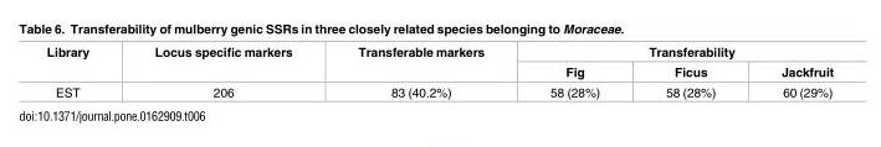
<table><thead><tr><td rowspan="2">Library</td><td rowspan="2">Locus specific markers</td><td rowspan="2">Transferable markers</td><td colspan="3">Transferability</td></tr><tr><td>Fig</td><td>Ficus</td><td>Jackfruit</td></tr></thead><tbody><tr><td>EST</td><td>206</td><td>83 (40.2%)</td><td>58 (28%)</td><td>58 (28%)</td><td>60 (29%)</td></tr></tbody></table>